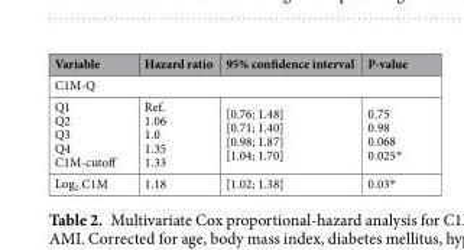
<table><thead><tr><td>Variable</td><td>Hazard ratio</td><td>95% confidence interval</td><td>P-value</td></tr></thead><tbody><tr><td colspan="4">C1M-Q</td></tr><tr><td>Q1 Q2 Q3 Q4 C1M-cutoff</td><td>Ref. 1.06 1.0 1.35 1.33</td><td>[0.76; 1.48] [0.71; 1.40] [0.98; 1.87] [1.04; 1.70]</td><td>0.75 0.98 0.068 0.025*</td></tr><tr><td>Log<sub>2-</sub>C1M</td><td>1.18</td><td>[1.02; 1.38]</td><td>0.03*</td></tr></tbody></table>